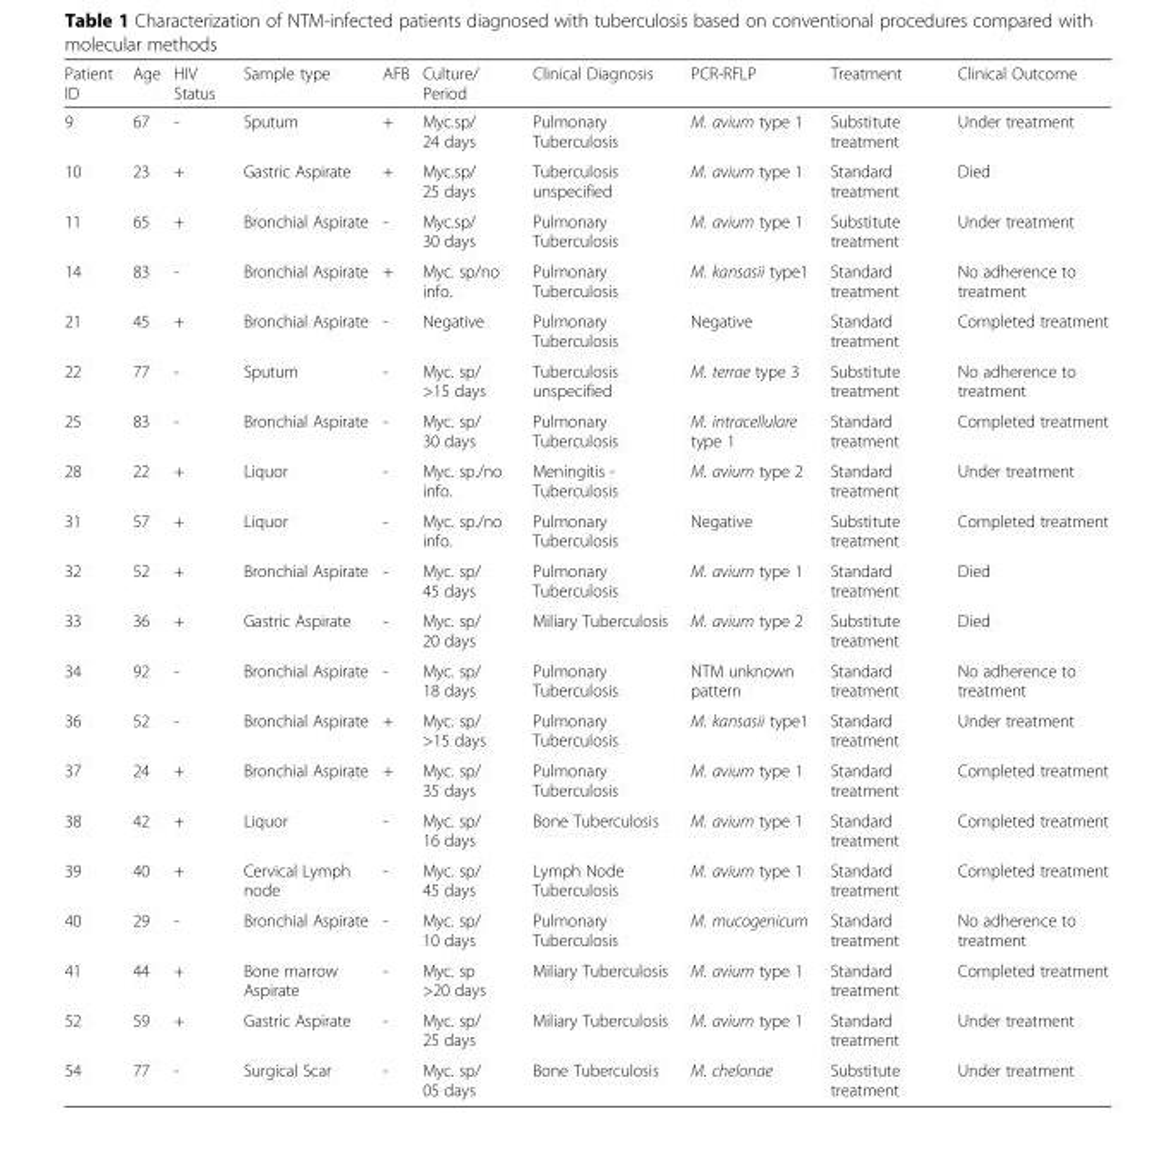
<table><thead><tr><td>Patient ID</td><td>Age</td><td>HIV Status</td><td>Sample type</td><td>AFB</td><td>Culture/ Period</td><td>Clinical Diagnosis</td><td>PCR-RFLP</td><td>Treatment</td><td>Clinical Outcome</td></tr></thead><tbody><tr><td>9</td><td>67</td><td>-</td><td>Sputum</td><td>+</td><td>Myc.sp/ 24 days</td><td>Pulmonary Tuberculosis</td><td>M. avium type 1</td><td>Substitute treatment</td><td>Under treatment</td></tr><tr><td>10</td><td>23</td><td>+</td><td>Gastric Aspirate</td><td>+</td><td>Myc.sp/ 25 days</td><td>Tuberculosis unspecified</td><td>M. avium type 1</td><td>Standard treatment</td><td>Died</td></tr><tr><td>11</td><td>65</td><td>+</td><td>Bronchial Aspirate</td><td>-</td><td>Myc.sp/ 30 days</td><td>Pulmonary Tuberculosis</td><td>M. avium type 1</td><td>Substitute treatment</td><td>Under treatment</td></tr><tr><td>14</td><td>83</td><td>-</td><td>Bronchial Aspirate</td><td>+</td><td>Myc. sp/no info.</td><td>Pulmonary Tuberculosis</td><td>M. kansasii type1</td><td>Standard treatment</td><td>No adherence to treatment</td></tr><tr><td>21</td><td>45</td><td>+</td><td>Bronchial Aspirate</td><td>-</td><td>Negative</td><td>Pulmonary Tuberculosis</td><td>Negative</td><td>Standard treatment</td><td>Completed treatment</td></tr><tr><td>22</td><td>77</td><td>-</td><td>Sputum</td><td>-</td><td>Myc. sp/ &gt;15 days</td><td>Tuberculosis unspecified</td><td>M. terrae type 3</td><td>Substitute treatment</td><td>No adherence to treatment</td></tr><tr><td>25</td><td>83</td><td>-</td><td>Bronchial Aspirate</td><td>-</td><td>Myc. sp/ 30 days</td><td>Pulmonary Tuberculosis</td><td>M. intracellulare type 1</td><td>Standard treatment</td><td>Completed treatment</td></tr><tr><td>28</td><td>22</td><td>+</td><td>Liquor</td><td>-</td><td>Myc. sp./no info.</td><td>Meningitis - Tuberculosis</td><td>M. avium type 2</td><td>Standard treatment</td><td>Under treatment</td></tr><tr><td>31</td><td>57</td><td>+</td><td>Liquor</td><td>-</td><td>Myc. sp./no info.</td><td>Pulmonary Tuberculosis</td><td>Negative</td><td>Substitute treatment</td><td>Completed treatment</td></tr><tr><td>32</td><td>52</td><td>+</td><td>Bronchial Aspirate</td><td>-</td><td>Myc. sp/ 45 days</td><td>Pulmonary Tuberculosis</td><td>M. avium type 1</td><td>Standard treatment</td><td>Died</td></tr><tr><td>33</td><td>36</td><td>+</td><td>Gastric Aspirate</td><td>-</td><td>Myc. sp/ 20 days</td><td>Miliary Tuberculosis</td><td>M. avium type 2</td><td>Substitute treatment</td><td>Died</td></tr><tr><td>34</td><td>92</td><td>-</td><td>Bronchial Aspirate</td><td>-</td><td>Myc. sp/ 18 days</td><td>Pulmonary Tuberculosis</td><td>NTM unknown pattern</td><td>Standard treatment</td><td>No adherence to treatment</td></tr><tr><td>36</td><td>52</td><td>-</td><td>Bronchial Aspirate</td><td>+</td><td>Myc. sp/ &gt;15 days</td><td>Pulmonary Tuberculosis</td><td>M. kansasii type1</td><td>Standard treatment</td><td>Under treatment</td></tr><tr><td>37</td><td>24</td><td>+</td><td>Bronchial Aspirate</td><td>+</td><td>Myc. sp/ 35 days</td><td>Pulmonary Tuberculosis</td><td>M. avium type 1</td><td>Standard treatment</td><td>Completed treatment</td></tr><tr><td>38</td><td>42</td><td>+</td><td>Liquor</td><td>-</td><td>Myc. sp/ 16 days</td><td>Bone Tuberculosis</td><td>M. avium type 1</td><td>Standard treatment</td><td>Completed treatment</td></tr><tr><td>39</td><td>40</td><td>+</td><td>Cervical Lymph node</td><td>-</td><td>Myc. sp/ 45 days</td><td>Lymph Node Tuberculosis</td><td>M. avium type 1</td><td>Standard treatment</td><td>Completed treatment</td></tr><tr><td>40</td><td>29</td><td>-</td><td>Bronchial Aspirate</td><td>-</td><td>Myc. sp/ 10 days</td><td>Pulmonary Tuberculosis</td><td>M. mucogenicum</td><td>Standard treatment</td><td>No adherence to treatment</td></tr><tr><td>41</td><td>44</td><td>+</td><td>Bone marrow Aspirate</td><td>-</td><td>Myc. sp &gt;20 days</td><td>Miliary Tuberculosis</td><td>M. avium type 1</td><td>Standard treatment</td><td>Completed treatment</td></tr><tr><td>52</td><td>59</td><td>+</td><td>Gastric Aspirate</td><td>-</td><td>Myc. sp/ 25 days</td><td>Miliary Tuberculosis</td><td>M. avium type 1</td><td>Standard treatment</td><td>Under treatment</td></tr><tr><td>54</td><td>77</td><td>-</td><td>Surgical Scar</td><td>-</td><td>Myc. sp/ 05 days</td><td>Bone Tuberculosis</td><td>M. chelonae</td><td>Substitute treatment</td><td>Under treatment</td></tr></tbody></table>